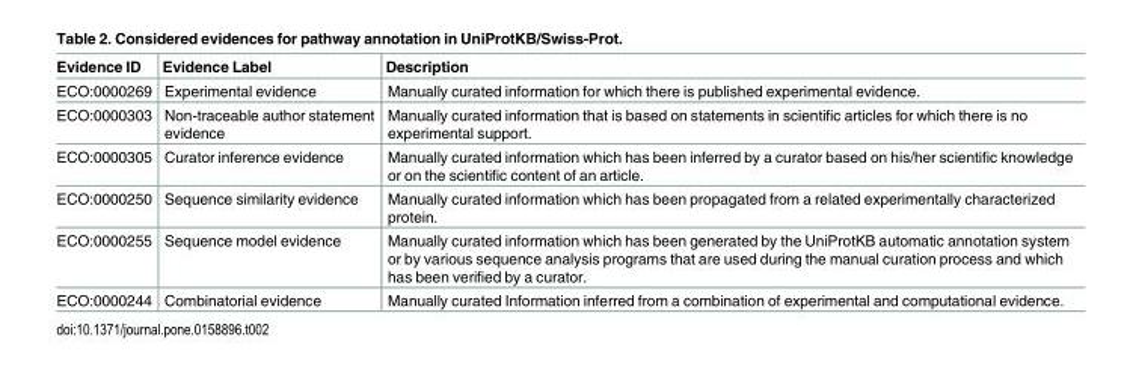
<table><thead><tr><td>Evidence ID</td><td>Evidence Label</td><td>Description</td></tr></thead><tbody><tr><td>ECO:0000269</td><td>Experimental evidence</td><td>Manually curated information for which there is published experimental evidence.</td></tr><tr><td>ECO:0000303</td><td>Non-traceable author statement evidence</td><td>Manually curated information that is based on statements in scientific articles for which there is no experimental support.</td></tr><tr><td>ECO:0000305</td><td>Curator inference evidence</td><td>Manually curated information which has been inferred by a curator based on his/her scientific knowledge or on the scientific content of an article.</td></tr><tr><td>ECO:0000250</td><td>Sequence similarity evidence</td><td>Manually curated information which has been propagated from a related experimentally characterized protein.</td></tr><tr><td>ECO:0000255</td><td>Sequence model evidence</td><td>Manually curated information which has been generated by the UniProtKB automatic annotation system or by various sequence analysis programs that are used during the manual curation process and which has been verified by a curator.</td></tr><tr><td>ECO:0000244</td><td>Combinatorial evidence</td><td>Manually curated Information inferred from a combination of experimental and computational evidence.</td></tr></tbody></table>